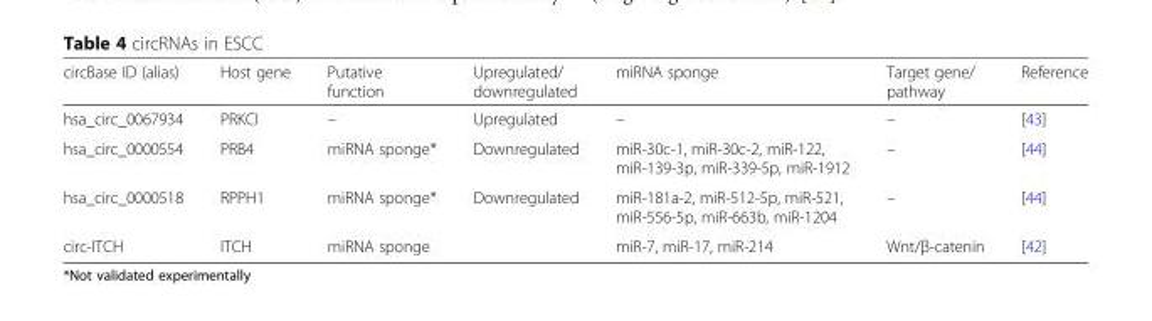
<table><thead><tr><td>circBase ID (alias)</td><td>Host gene</td><td>Putative function</td><td>Upregulated/ downregulated</td><td>miRNA sponge</td><td>Target gene/ pathway</td><td>Reference</td></tr></thead><tbody><tr><td>hsa_circ_0067934</td><td>PRKCI</td><td>–</td><td>Upregulated</td><td>–</td><td>–</td><td>[43]</td></tr><tr><td>hsa_circ_0000554</td><td>PRB4</td><td>miRNA sponge*</td><td>Downregulated</td><td>miR-30c-1, miR-30c-2, miR-122, miR-139-3p, miR-339-5p, miR-1912</td><td>–</td><td>[44]</td></tr><tr><td>hsa_circ_0000518</td><td>RPPH1</td><td>miRNA sponge*</td><td>Downregulated</td><td>miR-181a-2, miR-512-5p, miR-521, miR-556-5p, miR-663b, miR-1204</td><td>–</td><td>[44]</td></tr><tr><td>circ-ITCH</td><td>ITCH</td><td>miRNA sponge</td><td></td><td>miR-7, miR-17, miR-214</td><td>Wnt/β-catenin</td><td>[42]</td></tr></tbody></table>